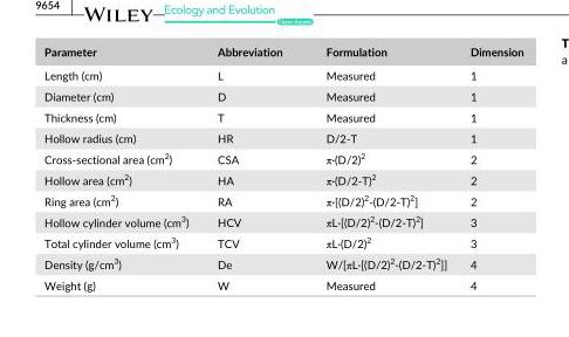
<table><thead><tr><td>Parameter</td><td>Abbreviation</td><td>Formulation</td><td>Dimension</td></tr></thead><tbody><tr><td>Length (cm)</td><td>L</td><td>Measured</td><td>1</td></tr><tr><td>Diameter (cm)</td><td>D</td><td>Measured</td><td>1</td></tr><tr><td>Thickness (cm)</td><td>T</td><td>Measured</td><td>1</td></tr><tr><td>Hollow radius (cm)</td><td>HR</td><td>D/2- T</td><td>1</td></tr><tr><td>Cross- sectional area (cm<sup>2</sup>)</td><td>CSA</td><td>π·(D/2)<sup>2</sup></td><td>2</td></tr><tr><td>Hollow area (cm<sup>2</sup>)</td><td>HA</td><td>π·(D/2- T)<sup>2</sup></td><td>2</td></tr><tr><td>Ring area (cm<sup>2</sup>)</td><td>RA</td><td>π·[(D/2)<sup>2</sup>- (D/2- T)<sup>2</sup>]</td><td>2</td></tr><tr><td>Hollow cylinder volume (cm<sup>3</sup>)</td><td>HCV</td><td>πL·[(D/2)<sup>2</sup>- (D/2- T)<sup>2</sup>]</td><td>3</td></tr><tr><td>Total cylinder volume (cm<sup>3</sup>)</td><td>TCV</td><td>πL·(D/2)<sup>2</sup></td><td>3</td></tr><tr><td>Density (g/cm<sup>3</sup>)</td><td>De</td><td>W/[πL·[(D/2)<sup>2</sup>- (D/2- T)<sup>2</sup>]]</td><td>4</td></tr><tr><td>Weight (g)</td><td>W</td><td>Measured</td><td>4</td></tr></tbody></table>